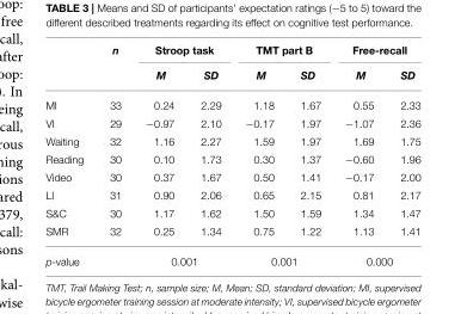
<table><thead><tr><td rowspan="2"></td><td rowspan="2">n</td><td colspan="2">Stroop task</td><td colspan="2">TMT part B</td><td colspan="2">Free-recall</td></tr><tr><td>M</td><td>SD</td><td>M</td><td>SD</td><td>M</td><td>SD</td></tr></thead><tbody><tr><td>MI</td><td>33</td><td>0.24</td><td>2.29</td><td>1.18</td><td>1.67</td><td>0.55</td><td>2.33</td></tr><tr><td>VI</td><td>29</td><td>−0.97</td><td>2.10</td><td>−0.17</td><td>1.97</td><td>−1.07</td><td>2.36</td></tr><tr><td>Waiting</td><td>32</td><td>1.16</td><td>2.27</td><td>1.59</td><td>1.97</td><td>1.69</td><td>1.75</td></tr><tr><td>Reading</td><td>30</td><td>0.10</td><td>1.73</td><td>0.30</td><td>1.37</td><td>−0.60</td><td>1.96</td></tr><tr><td>Video</td><td>30</td><td>0.37</td><td>1.67</td><td>0.50</td><td>1.41</td><td>−0.17</td><td>2.00</td></tr><tr><td>LI</td><td>31</td><td>0.90</td><td>2.06</td><td>0.65</td><td>2.15</td><td>0.81</td><td>2.17</td></tr><tr><td>S&amp;C</td><td>30</td><td>1.17</td><td>1.62</td><td>1.50</td><td>1.59</td><td>1.34</td><td>1.47</td></tr><tr><td>SMR</td><td>32</td><td>0.25</td><td>1.34</td><td>0.75</td><td>1.22</td><td>1.13</td><td>1.41</td></tr><tr><td>p-value</td><td></td><td colspan="2">0.001</td><td colspan="2">0.001</td><td colspan="2">0.000</td></tr></tbody></table>